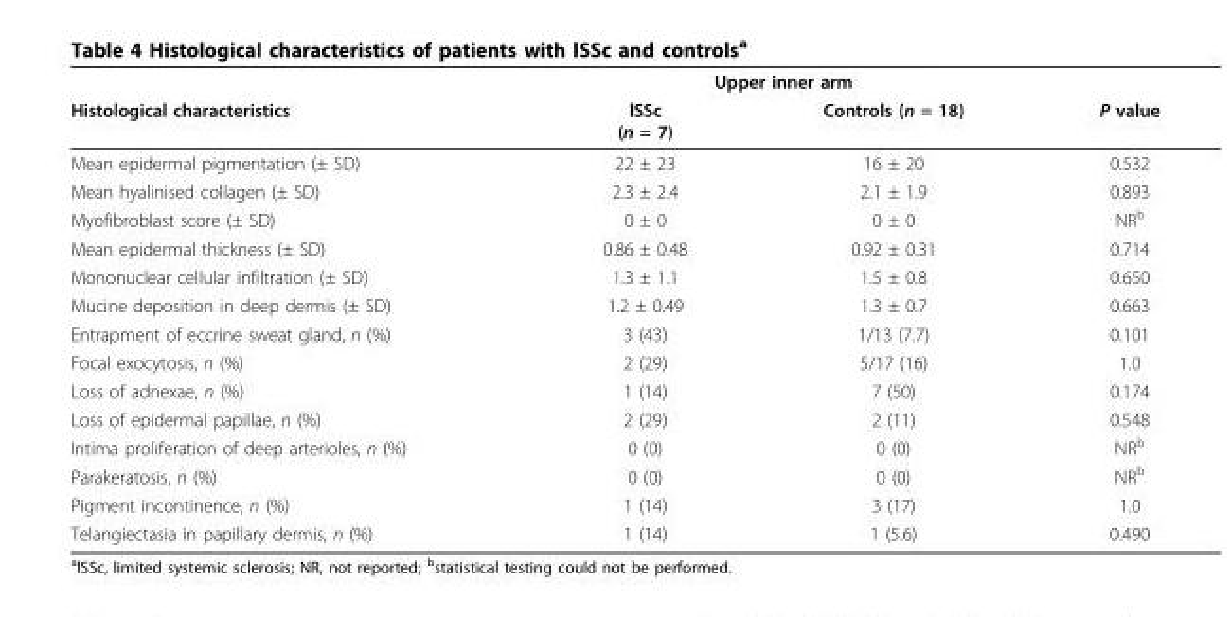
<table><thead><tr><td rowspan="2">Histological characteristics</td><td colspan="2">Upper inner arm</td><td rowspan="2">P value</td></tr><tr><td>lSSc (n = 7)</td><td>Controls (n = 18)</td></tr></thead><tbody><tr><td>Mean epidermal pigmentation (± SD)</td><td>22 ± 23</td><td>16 ± 20</td><td>0.532</td></tr><tr><td>Mean hyalinised collagen (± SD)</td><td>2.3 ± 2.4</td><td>2.1 ± 1.9</td><td>0.893</td></tr><tr><td>Myofibroblast score (± SD)</td><td>0 ± 0</td><td>0 ± 0</td><td>NR<sup>b</sup></td></tr><tr><td>Mean epidermal thickness (± SD)</td><td>0.86 ± 0.48</td><td>0.92 ± 0.31</td><td>0.714</td></tr><tr><td>Mononuclear cellular infiltration (± SD)</td><td>1.3 ± 1.1</td><td>1.5 ± 0.8</td><td>0.650</td></tr><tr><td>Mucine deposition in deep dermis (± SD)</td><td>1.2 ± 0.49</td><td>1.3 ± 0.7</td><td>0.663</td></tr><tr><td>Entrapment of eccrine sweat gland, n (%)</td><td>3 (43)</td><td>1/13 (7.7)</td><td>0.101</td></tr><tr><td>Focal exocytosis, n (%)</td><td>2 (29)</td><td>5/17 (16)</td><td>1.0</td></tr><tr><td>Loss of adnexae, n (%)</td><td>1 (14)</td><td>7 (50)</td><td>0.174</td></tr><tr><td>Loss of epidermal papillae, n (%)</td><td>2 (29)</td><td>2 (11)</td><td>0.548</td></tr><tr><td>Intima proliferation of deep arterioles, n (%)</td><td>0 (0)</td><td>0 (0)</td><td>NR<sup>b</sup></td></tr><tr><td>Parakeratosis, n (%)</td><td>0 (0)</td><td>0 (0)</td><td>NR<sup>b</sup></td></tr><tr><td>Pigment incontinence, n (%)</td><td>1 (14)</td><td>3 (17)</td><td>1.0</td></tr><tr><td>Telangiectasia in papillary dermis, n (%)</td><td>1 (14)</td><td>1 (5.6)</td><td>0.490</td></tr></tbody></table>